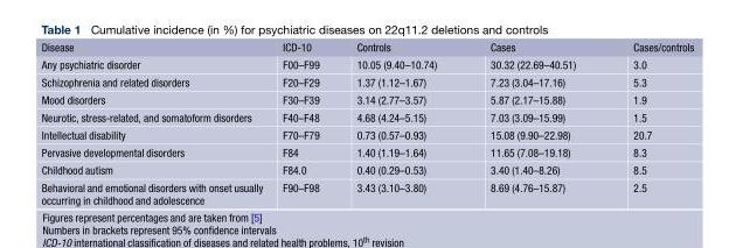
<table><thead><tr><td>Disease</td><td>ICD-10</td><td>Controls</td><td>Cases</td><td>Cases/controls</td></tr></thead><tbody><tr><td>Any psychiatric disorder</td><td>F00–F99</td><td>10.05 (9.40–10.74)</td><td>30.32 (22.69–40.51)</td><td>3.0</td></tr><tr><td>Schizophrenia and related disorders</td><td>F20–F29</td><td>1.37 (1.12–1.67)</td><td>7.23 (3.04–17.16)</td><td>5.3</td></tr><tr><td>Mood disorders</td><td>F30–F39</td><td>3.14 (2.77–3.57)</td><td>5.87 (2.17–15.88)</td><td>1.9</td></tr><tr><td>Neurotic, stress-related, and somatoform disorders</td><td>F40–F48</td><td>4.68 (4.24–5.15)</td><td>7.03 (3.09–15.99)</td><td>1.5</td></tr><tr><td>Intellectual disability</td><td>F70–F79</td><td>0.73 (0.57–0.93)</td><td>15.08 (9.90–22.98)</td><td>20.7</td></tr><tr><td>Pervasive developmental disorders</td><td>F84</td><td>1.40 (1.19–1.64)</td><td>11.65 (7.08–19.18)</td><td>8.3</td></tr><tr><td>Childhood autism</td><td>F84.0</td><td>0.40 (0.29–0.53)</td><td>3.40 (1.40–8.26)</td><td>8.5</td></tr><tr><td>Behavioral and emotional disorders with onset usually occurring in childhood and adolescence</td><td>F90–F98</td><td>3.43 (3.10–3.80)</td><td>8.69 (4.76–15.87)</td><td>2.5</td></tr></tbody></table>